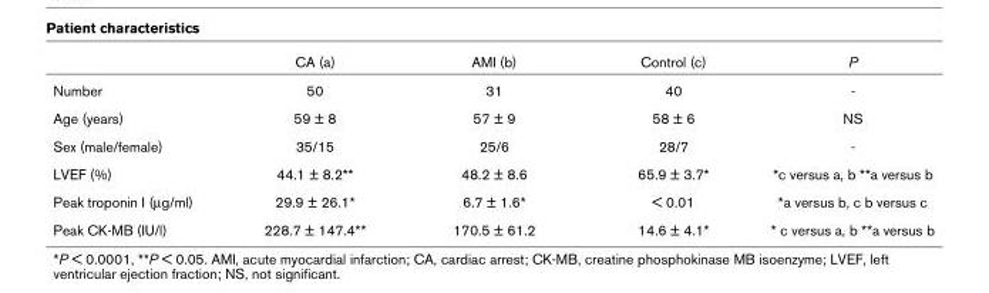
<table><thead><tr><td></td><td>CA (a)</td><td>AMI (b)</td><td>Control (c)</td><td>P</td></tr></thead><tbody><tr><td>Number</td><td>50</td><td>31</td><td>40</td><td>-</td></tr><tr><td>Age (years)</td><td>59 ± 8</td><td>57 ± 9</td><td>58 ± 6</td><td>NS</td></tr><tr><td>Sex (male/female)</td><td>35/15</td><td>25/6</td><td>28/7</td><td>-</td></tr><tr><td>LVEF (%)</td><td>44.1 ± 8.2**</td><td>48.2 ± 8.6</td><td>65.9 ± 3.7*</td><td>*c versus a, b **a versus b</td></tr><tr><td>Peak troponin I (µg/ml)</td><td>29.9 ± 26.1*</td><td>6.7 ± 1.6*</td><td>&lt; 0.01</td><td>*a versus b, c b versus c</td></tr><tr><td>Peak CK-MB (IU/l)</td><td>228.7 ± 147.4**</td><td>170.5 ± 61.2</td><td>14.6 ± 4.1*</td><td>* c versus a, b **a versus b</td></tr></tbody></table>